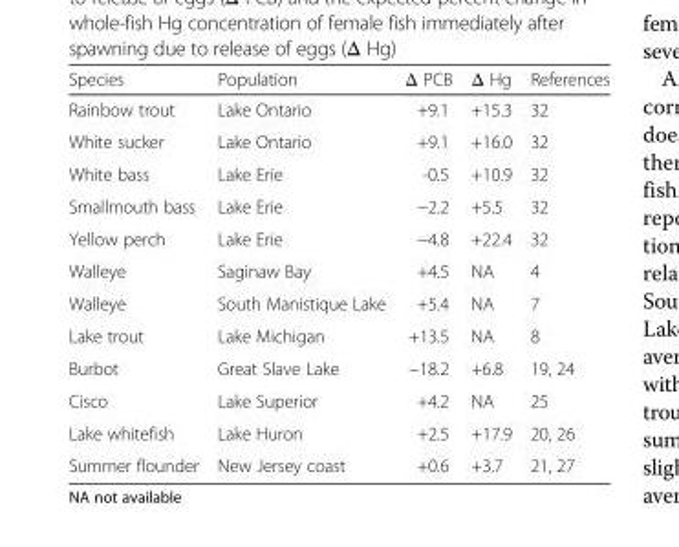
<table><thead><tr><td>Species</td><td>Population</td><td>Δ PCB</td><td>Δ Hg</td><td>References</td></tr></thead><tbody><tr><td>Rainbow trout</td><td>Lake Ontario</td><td>+9.1</td><td>+15.3</td><td>32</td></tr><tr><td>White sucker</td><td>Lake Ontario</td><td>+9.1</td><td>+16.0</td><td>32</td></tr><tr><td>White bass</td><td>Lake Erie</td><td>-0.5</td><td>+10.9</td><td>32</td></tr><tr><td>Smallmouth bass</td><td>Lake Erie</td><td>−2.2</td><td>+5.5</td><td>32</td></tr><tr><td>Yellow perch</td><td>Lake Erie</td><td>−4.8</td><td>+22.4</td><td>32</td></tr><tr><td>Walleye</td><td>Saginaw Bay</td><td>+4.5</td><td>NA</td><td>4</td></tr><tr><td>Walleye</td><td>South Manistique Lake</td><td>+5.4</td><td>NA</td><td>7</td></tr><tr><td>Lake trout</td><td>Lake Michigan</td><td>+13.5</td><td>NA</td><td>8</td></tr><tr><td>Burbot</td><td>Great Slave Lake</td><td>−18.2</td><td>+6.8</td><td>19, 24</td></tr><tr><td>Cisco</td><td>Lake Superior</td><td>+4.2</td><td>NA</td><td>25</td></tr><tr><td>Lake whitefish</td><td>Lake Huron</td><td>+2.5</td><td>+17.9</td><td>20, 26</td></tr><tr><td>Summer flounder</td><td>New Jersey coast</td><td>+0.6</td><td>+3.7</td><td>21, 27</td></tr></tbody></table>